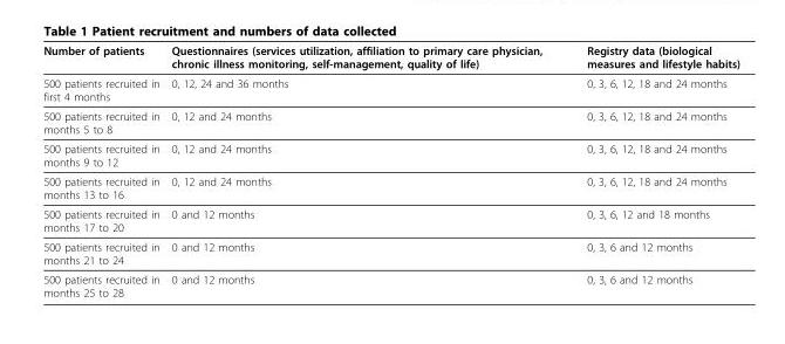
<table><thead><tr><td>Number of patients</td><td>Questionnaires (services utilization, affiliation to primary care physician, chronic illness monitoring, self-management, quality of life)</td><td>Registry data (biological measures and lifestyle habits)</td></tr></thead><tbody><tr><td>500 patients recruited in first 4 months</td><td>0, 12, 24 and 36 months</td><td>0, 3, 6, 12, 18 and 24 months</td></tr><tr><td>500 patients recruited in months 5 to 8</td><td>0, 12 and 24 months</td><td>0, 3, 6, 12, 18 and 24 months</td></tr><tr><td>500 patients recruited in months 9 to 12</td><td>0, 12 and 24 months</td><td>0, 3, 6, 12, 18 and 24 months</td></tr><tr><td>500 patients recruited in months 13 to 16</td><td>0, 12 and 24 months</td><td>0, 3, 6, 12, 18 and 24 months</td></tr><tr><td>500 patients recruited in months 17 to 20</td><td>0 and 12 months</td><td>0, 3, 6, 12 and 18 months</td></tr><tr><td>500 patients recruited in months 21 to 24</td><td>0 and 12 months</td><td>0, 3, 6 and 12 months</td></tr><tr><td>500 patients recruited in months 25 to 28</td><td>0 and 12 months</td><td>0, 3, 6 and 12 months</td></tr></tbody></table>